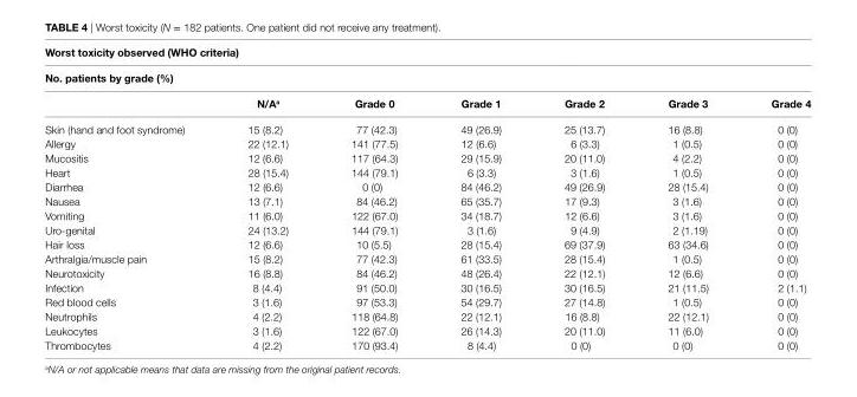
<table><thead><tr><td rowspan="2" colspan="7">Worst toxicity observed (WHO criteria) no. patients by grade (%)</td></tr><tr></tr><tr><td></td><td>n/a<sup>a</sup></td><td>Grade 0</td><td>Grade 1</td><td>Grade 2</td><td>Grade 3</td><td>Grade 4</td></tr></thead><tbody><tr><td>Skin (hand and foot syndrome)</td><td>15 (8.2)</td><td>77 (42.3)</td><td>49 (26.9)</td><td>25 (13.7)</td><td>16 (8.8)</td><td>0 (0)</td></tr><tr><td>Allergy</td><td>22 (12.1)</td><td>141 (77.5)</td><td>12 (6.6)</td><td>6 (3.3)</td><td>1 (0.5)</td><td>0 (0)</td></tr><tr><td>Mucositis</td><td>12 (6.6)</td><td>117 (64.3)</td><td>29 (15.9)</td><td>20 (11.0)</td><td>4 (2.2)</td><td>0 (0)</td></tr><tr><td>Heart</td><td>28 (15.4)</td><td>144 (79.1)</td><td>6 (3.3)</td><td>3 (1.6)</td><td>1 (0.5)</td><td>0 (0)</td></tr><tr><td>Diarrhea</td><td>12 (6.6)</td><td>0 (0)</td><td>84 (46.2)</td><td>49 (26.9)</td><td>28 (15.4)</td><td>0 (0)</td></tr><tr><td>Nausea</td><td>13 (7.1)</td><td>84 (46.2)</td><td>65 (35.7)</td><td>17 (9.3)</td><td>3 (1.6)</td><td>0 (0)</td></tr><tr><td>Vomiting</td><td>11 (6.0)</td><td>122 (67.0)</td><td>34 (18.7)</td><td>12 (6.6)</td><td>3 (1.6)</td><td>0 (0)</td></tr><tr><td>Uro-genital</td><td>24 (13.2)</td><td>144 (79.1)</td><td>3 (1.6)</td><td>9 (4.9)</td><td>2 (1.19)</td><td>0 (0)</td></tr><tr><td>Hair loss</td><td>12 (6.6)</td><td>10 (5.5)</td><td>28 (15.4)</td><td>69 (37.9)</td><td>63 (34.6)</td><td>0 (0)</td></tr><tr><td>Arthralgia/muscle pain</td><td>15 (8.2)</td><td>77 (42.3)</td><td>61 (33.5)</td><td>28 (15.4)</td><td>1 (0.5)</td><td>0 (0)</td></tr><tr><td>Neurotoxicity</td><td>16 (8.8)</td><td>84 (46.2)</td><td>48 (26.4)</td><td>22 (12.1)</td><td>12 (6.6)</td><td>0 (0)</td></tr><tr><td>Infection</td><td>8 (4.4)</td><td>91 (50.0)</td><td>30 (16.5)</td><td>30 (16.5)</td><td>21 (11.5)</td><td>2 (1.1)</td></tr><tr><td>Red blood cells</td><td>3 (1.6)</td><td>97 (53.3)</td><td>54 (29.7)</td><td>27 (14.8)</td><td>1 (0.5)</td><td>0 (0)</td></tr><tr><td>Neutrophils</td><td>4 (2.2)</td><td>118 (64.8)</td><td>22 (12.1)</td><td>16 (8.8)</td><td>22 (12.1)</td><td>0 (0)</td></tr><tr><td>Leukocytes</td><td>3 (1.6)</td><td>122 (67.0)</td><td>26 (14.3)</td><td>20 (11.0)</td><td>11 (6.0)</td><td>0 (0)</td></tr><tr><td>Thrombocytes</td><td>4 (2.2)</td><td>170 (93.4)</td><td>8 (4.4)</td><td>0 (0)</td><td>0 (0)</td><td>0 (0)</td></tr></tbody></table>